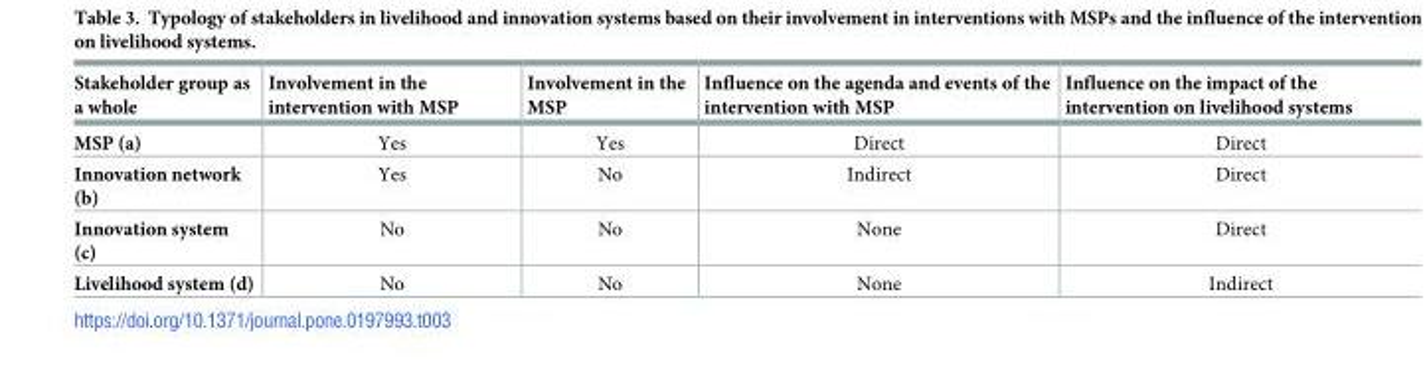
<table><thead><tr><td>Stakeholder group as a whole</td><td>Involvement in the intervention with MSP</td><td>Involvement in the MSP</td><td>Influence on the agenda and events of the intervention with MSP</td><td>Influence on the impact of the intervention on livelihood systems</td></tr></thead><tbody><tr><td>MSP (a)</td><td>Yes</td><td>Yes</td><td>Direct</td><td>Direct</td></tr><tr><td>Innovation network (b)</td><td>Yes</td><td>No</td><td>Indirect</td><td>Direct</td></tr><tr><td>Innovation system (c)</td><td>No</td><td>No</td><td>None</td><td>Direct</td></tr><tr><td>Livelihood system (d)</td><td>No</td><td>No</td><td>None</td><td>Indirect</td></tr></tbody></table>